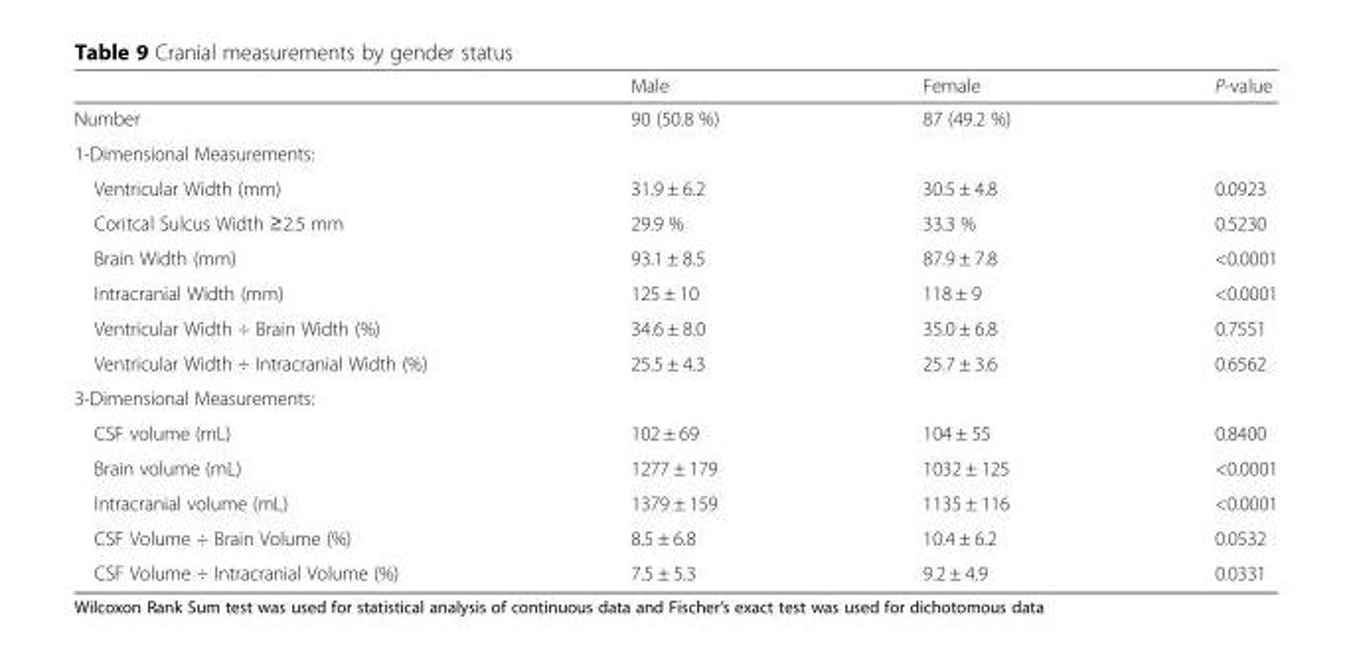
<table><thead><tr><td></td><td>Male</td><td>Female</td><td>P-value</td></tr></thead><tbody><tr><td>Number</td><td>90 (50.8 %)</td><td>87 (49.2 %)</td><td></td></tr><tr><td colspan="4">1-Dimensional Measurements:</td></tr><tr><td>Ventricular Width (mm)</td><td>31.9 ± 6.2</td><td>30.5 ± 4.8</td><td>0.0923</td></tr><tr><td>Coritcal Sulcus Width ≥2.5 mm</td><td>29.9 %</td><td>33.3 %</td><td>0.5230</td></tr><tr><td>Brain Width (mm)</td><td>93.1 ± 8.5</td><td>87.9 ± 7.8</td><td>&lt;0.0001</td></tr><tr><td>Intracranial Width (mm)</td><td>125 ± 10</td><td>118 ± 9</td><td>&lt;0.0001</td></tr><tr><td>Ventricular Width ÷ Brain Width (%)</td><td>34.6 ± 8.0</td><td>35.0 ± 6.8</td><td>0.7551</td></tr><tr><td>Ventricular Width ÷ Intracranial Width (%)</td><td>25.5 ± 4.3</td><td>25.7 ± 3.6</td><td>0.6562</td></tr><tr><td colspan="4">3-Dimensional Measurements:</td></tr><tr><td>CSF volume (mL)</td><td>102 ± 69</td><td>104 ± 55</td><td>0.8400</td></tr><tr><td>Brain volume (mL)</td><td>1277 ± 179</td><td>1032 ± 125</td><td>&lt;0.0001</td></tr><tr><td>Intracranial volume (mL)</td><td>1379 ± 159</td><td>1135 ± 116</td><td>&lt;0.0001</td></tr><tr><td>CSF Volume ÷ Brain Volume (%)</td><td>8.5 ± 6.8</td><td>10.4 ± 6.2</td><td>0.0532</td></tr><tr><td>CSF Volume ÷ Intracranial Volume (%)</td><td>7.5 ± 5.3</td><td>9.2 ± 4.9</td><td>0.0331</td></tr></tbody></table>